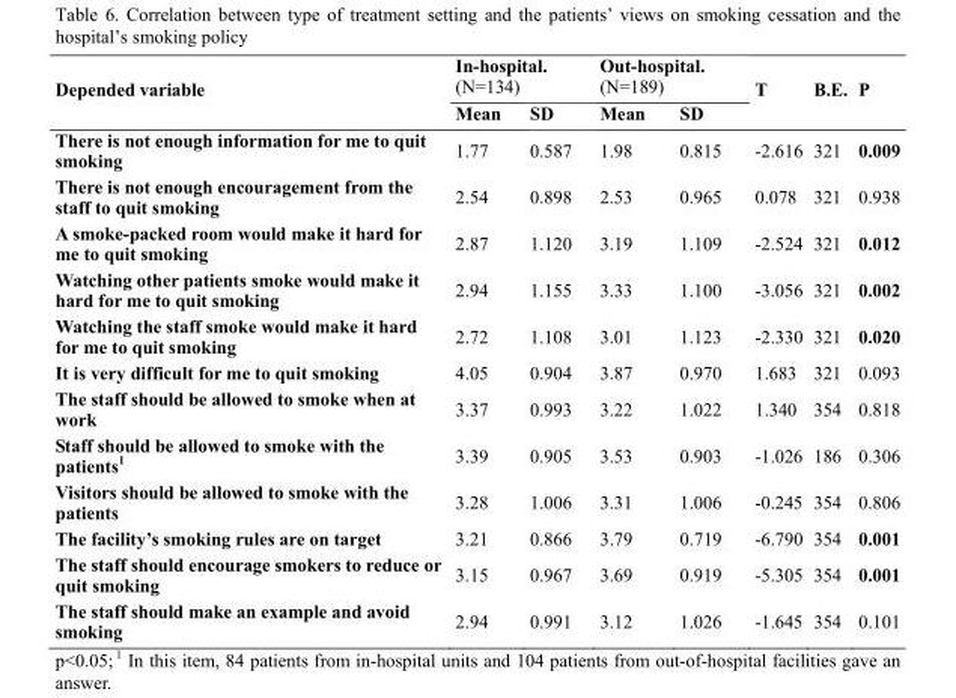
<table><thead><tr><td rowspan="2">Depended variable</td><td colspan="2">In-hospital. (Ν=134)</td><td colspan="2">Out-hospital. (Ν=189)</td><td rowspan="2">T</td><td rowspan="2">B.E.</td><td rowspan="2">P</td></tr><tr><td>Mean</td><td>SD</td><td>Mean</td><td>SD</td></tr></thead><tbody><tr><td>There is not enough information for me to quit smoking</td><td>1.77</td><td>0.587</td><td>1.98</td><td>0.815</td><td>-2.616</td><td>321</td><td>0.009</td></tr><tr><td>There is not enough encouragement from the staff to quit smoking</td><td>2.54</td><td>0.898</td><td>2.53</td><td>0.965</td><td>0.078</td><td>321</td><td>0.938</td></tr><tr><td>A smoke-packed room would make it hard for me to quit smoking</td><td>2.87</td><td>1.120</td><td>3.19</td><td>1.109</td><td>-2.524</td><td>321</td><td>0.012</td></tr><tr><td>Watching other patients smoke would make it hard for me to quit smoking</td><td>2.94</td><td>1.155</td><td>3.33</td><td>1.100</td><td>-3.056</td><td>321</td><td>0.002</td></tr><tr><td>Watching the staff smoke would make it hard for me to quit smoking</td><td>2.72</td><td>1.108</td><td>3.01</td><td>1.123</td><td>-2.330</td><td>321</td><td>0.020</td></tr><tr><td>It is very difficult for me to quit smoking</td><td>4.05</td><td>0.904</td><td>3.87</td><td>0.970</td><td>1.683</td><td>321</td><td>0.093</td></tr><tr><td>The staff should be allowed to smoke when at work</td><td>3.37</td><td>0.993</td><td>3.22</td><td>1.022</td><td>1.340</td><td>354</td><td>0.818</td></tr><tr><td>Staff should be allowed to smoke with the patients<sup>1</sup></td><td>3.39</td><td>0.905</td><td>3.53</td><td>0.903</td><td>-1.026</td><td>186</td><td>0.306</td></tr><tr><td>Visitors should be allowed to smoke with the patients</td><td>3.28</td><td>1.006</td><td>3.31</td><td>1.006</td><td>-0.245</td><td>354</td><td>0.806</td></tr><tr><td>The facility’s smoking rules are on target</td><td>3.21</td><td>0.866</td><td>3.79</td><td>0.719</td><td>-6.790</td><td>354</td><td>0.001</td></tr><tr><td>The staff should encourage smokers to reduce or quit smoking</td><td>3.15</td><td>0.967</td><td>3.69</td><td>0.919</td><td>-5.305</td><td>354</td><td>0.001</td></tr><tr><td>The staff should make an example and avoid smoking</td><td>2.94</td><td>0.991</td><td>3.12</td><td>1.026</td><td>-1.645</td><td>354</td><td>0.101</td></tr></tbody></table>